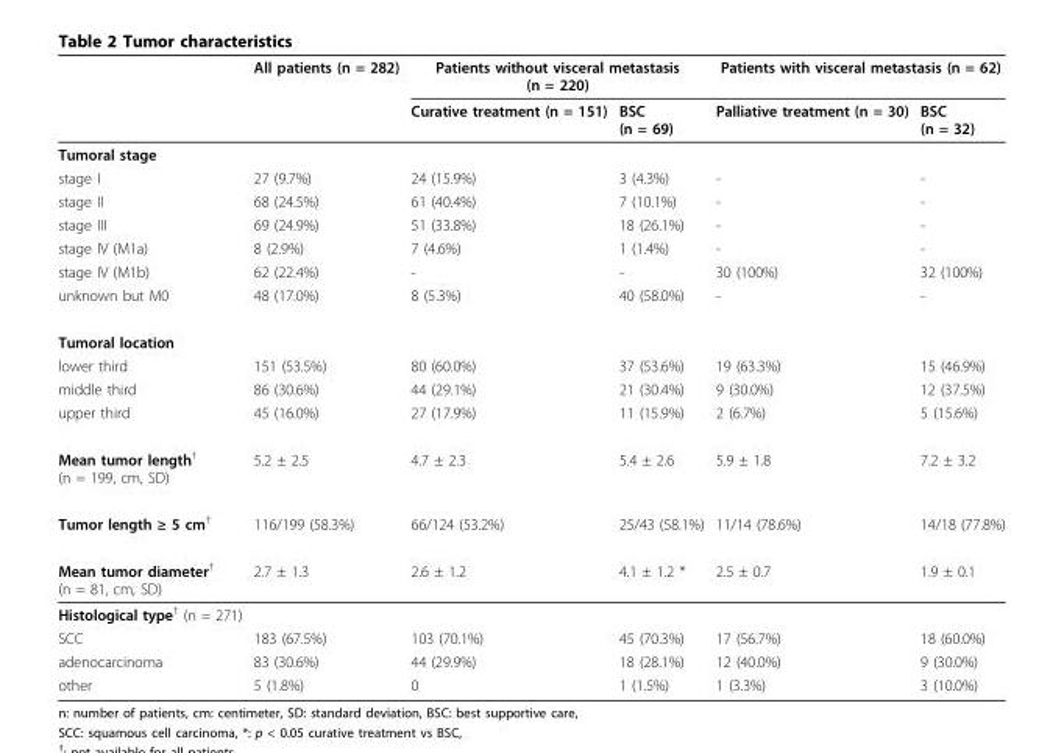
<table><thead><tr><td rowspan="2"></td><td rowspan="2">All patients (n = 282)</td><td colspan="2">Patients without visceral metastasis (n = 220)</td><td colspan="2">Patients with visceral metastasis (n = 62)</td></tr><tr><td>Curative treatment (n = 151)</td><td>BSC (n = 69)</td><td>Palliative treatment (n = 30)</td><td>BSC (n = 32)</td></tr></thead><tbody><tr><td colspan="6">Tumoral stage</td></tr><tr><td>stage I</td><td>27 (9.7%)</td><td>24 (15.9%)</td><td>3 (4.3%)</td><td>-</td><td>-</td></tr><tr><td>stage II</td><td>68 (24.5%)</td><td>61 (40.4%)</td><td>7 (10.1%)</td><td>-</td><td>-</td></tr><tr><td>stage III</td><td>69 (24.9%)</td><td>51 (33.8%)</td><td>18 (26.1%)</td><td>-</td><td>-</td></tr><tr><td>stage IV (M1a)</td><td>8 (2.9%)</td><td>7 (4.6%)</td><td>1 (1.4%)</td><td>-</td><td>-</td></tr><tr><td>stage IV (M1b)</td><td>62 (22.4%)</td><td>-</td><td>-</td><td>30 (100%)</td><td>32 (100%)</td></tr><tr><td>unknown but M0</td><td>48 (17.0%)</td><td>8 (5.3%)</td><td>40 (58.0%)</td><td>-</td><td>-</td></tr><tr><td colspan="6">Tumoral location</td></tr><tr><td>lower third</td><td>151 (53.5%)</td><td>80 (60.0%)</td><td>37 (53.6%)</td><td>19 (63.3%)</td><td>15 (46.9%)</td></tr><tr><td>middle third</td><td>86 (30.6%)</td><td>44 (29.1%)</td><td>21 (30.4%)</td><td>9 (30.0%)</td><td>12 (37.5%)</td></tr><tr><td>upper third</td><td>45 (16.0%)</td><td>27 (17.9%)</td><td>11 (15.9%)</td><td>2 (6.7%)</td><td>5 (15.6%)</td></tr><tr><td>Mean tumor length<sup>†</sup> (n = 199, cm, SD)</td><td>5.2 ± 2.5</td><td>4.7 ± 2.3</td><td>5.4 ± 2.6</td><td>5.9 ± 1.8</td><td>7.2 ± 3.2</td></tr><tr><td>Tumor length ≥ 5 cm<sup>†</sup></td><td>116/199 (58.3%)</td><td>66/124 (53.2%)</td><td>25/43 (58.1%)</td><td>11/14 (78.6%)</td><td>14/18 (77.8%)</td></tr><tr><td>Mean tumor diameter<sup>†</sup> (n = 81, cm, SD)</td><td>2.7 ± 1.3</td><td>2.6 ± 1.2</td><td>4.1 ± 1.2 *</td><td>2.5 ± 0.7</td><td>1.9 ± 0.1</td></tr><tr><td colspan="6">Histological type<sup>†</sup> (n = 271)</td></tr><tr><td>SCC</td><td>183 (67.5%)</td><td>103 (70.1%)</td><td>45 (70.3%)</td><td>17 (56.7%)</td><td>18 (60.0%)</td></tr><tr><td>adenocarcinoma</td><td>83 (30.6%)</td><td>44 (29.9%)</td><td>18 (28.1%)</td><td>12 (40.0%)</td><td>9 (30.0%)</td></tr><tr><td>other</td><td>5 (1.8%)</td><td>0</td><td>1 (1.5%)</td><td>1 (3.3%)</td><td>3 (10.0%)</td></tr></tbody></table>